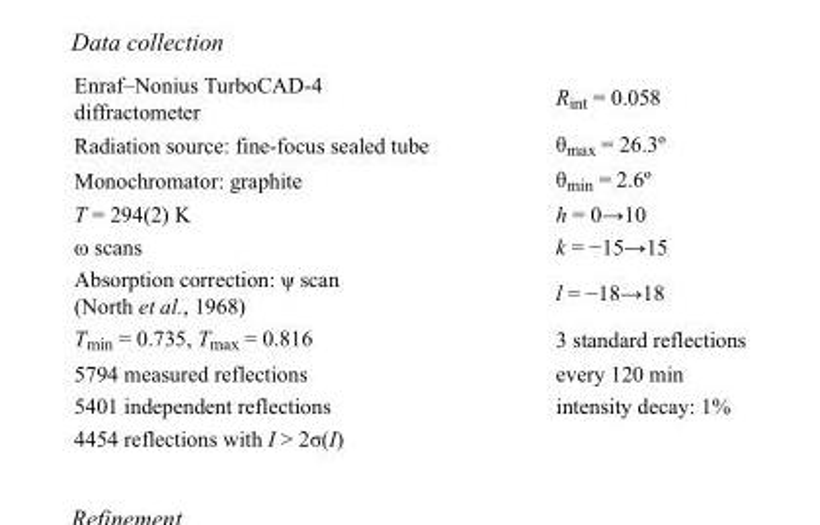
<table><tbody><tr><td>Enraf–Nonius TurboCAD-4 diffractometer</td><td>R<sub>int</sub> = 0.058</td></tr><tr><td>Radiation source: fine-focus sealed tube</td><td>θ<sub>max</sub> = 26.3º</td></tr><tr><td>Monochromator: graphite</td><td>θ<sub>min</sub> = 2.6º</td></tr><tr><td>T = 294(2) K</td><td>h = 0→10</td></tr><tr><td>ω scans</td><td>k = −15→15</td></tr><tr><td>Absorption correction: ψ scan (North et al., 1968)</td><td>l = −18→18</td></tr><tr><td>T<sub>min</sub> = 0.735, T<sub>max</sub> = 0.816</td><td>3 standard reflections</td></tr><tr><td>5794 measured reflections</td><td>every 120 min</td></tr><tr><td>5401 independent reflections</td><td>intensity decay: 1%</td></tr><tr><td>4454 reflections with I &gt; 2σ(I)</td><td></td></tr></tbody></table>